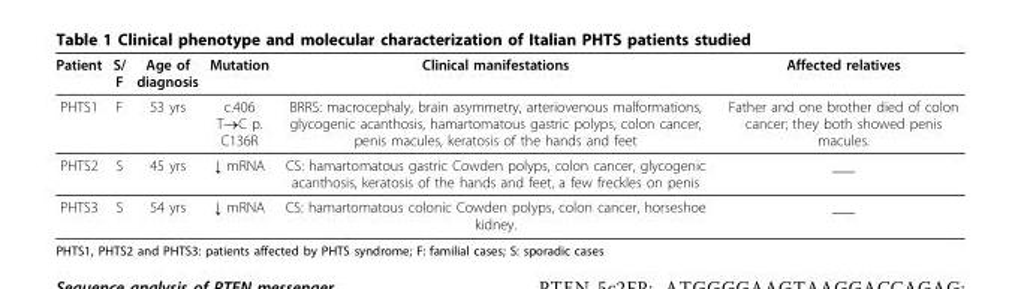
<table><thead><tr><td>Patient</td><td>S/ F</td><td>Age of diagnosis</td><td>Mutation</td><td>Clinical manifestations</td><td>Affected relatives</td></tr></thead><tbody><tr><td>PHTS1</td><td>F</td><td>53 yrs</td><td>c.406 T→C p. C136R</td><td>BRRS: macrocephaly, brain asymmetry, arteriovenous malformations, glycogenic acanthosis, hamartomatous gastric polyps, colon cancer, penis macules, keratosis of the hands and feet</td><td>Father and one brother died of colon cancer; they both showed penis macules.</td></tr><tr><td>PHTS2</td><td>S</td><td>45 yrs</td><td>↓ mRNA</td><td>CS: hamartomatous gastric Cowden polyps, colon cancer, glycogenic acanthosis, keratosis of the hands and feet, a few freckles on penis</td><td>___</td></tr><tr><td>PHTS3</td><td>S</td><td>54 yrs</td><td>↓ mRNA</td><td>CS: hamartomatous colonic Cowden polyps, colon cancer, horseshoe kidney.</td><td>___</td></tr></tbody></table>